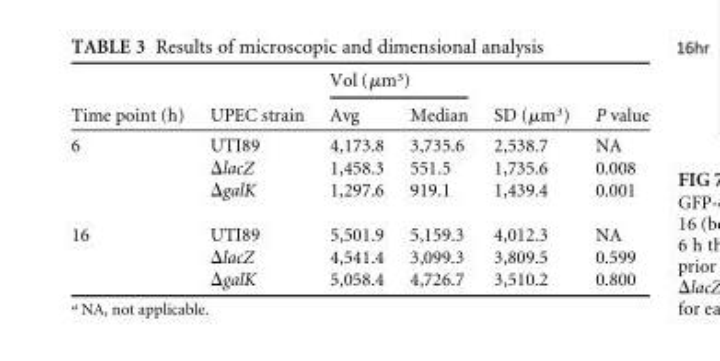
<table><thead><tr><td rowspan="2">Time point (h)</td><td rowspan="2">UPEC strain</td><td colspan="2">Vol (μm<sup>3</sup>)</td><td rowspan="2">SD (μm<sup>3</sup>)</td><td rowspan="2">P value</td></tr><tr><td>Avg</td><td>Median</td></tr></thead><tbody><tr><td rowspan="3">6</td><td>UTI89</td><td>4,173.8</td><td>3,735.6</td><td>2,538.7</td><td>NA</td></tr><tr><td>ΔlacZ</td><td>1,458.3</td><td>551.5</td><td>1,735.6</td><td>0.008</td></tr><tr><td>ΔgalK</td><td>1,297.6</td><td>919.1</td><td>1,439.4</td><td>0.001</td></tr><tr><td rowspan="3">16</td><td>UTI89</td><td>5,501.9</td><td>5,159.3</td><td>4,012.3</td><td>NA</td></tr><tr><td>ΔlacZ</td><td>4,541.4</td><td>3,099.3</td><td>3,809.5</td><td>0.599</td></tr><tr><td>ΔgalK</td><td>5,058.4</td><td>4,726.7</td><td>3,510.2</td><td>0.800</td></tr></tbody></table>